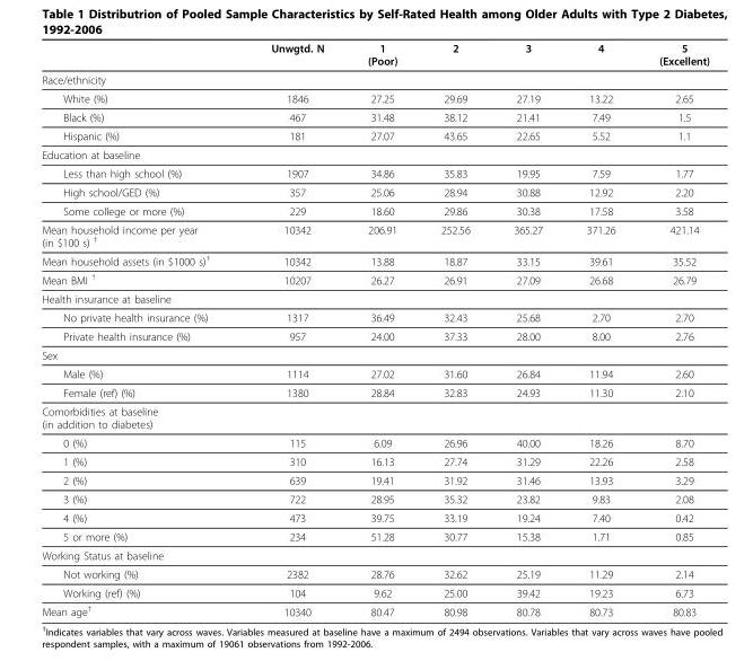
<table><thead><tr><td></td><td>Unwgtd. N</td><td>1 (Poor)</td><td>2</td><td>3</td><td>4</td><td>5 (Excellent)</td></tr></thead><tbody><tr><td colspan="7">Race/ethnicity</td></tr><tr><td>White (%)</td><td>1846</td><td>27.25</td><td>29.69</td><td>27.19</td><td>13.22</td><td>2.65</td></tr><tr><td>Black (%)</td><td>467</td><td>31.48</td><td>38.12</td><td>21.41</td><td>7.49</td><td>1.5</td></tr><tr><td>Hispanic (%)</td><td>181</td><td>27.07</td><td>43.65</td><td>22.65</td><td>5.52</td><td>1.1</td></tr><tr><td colspan="7">Education at baseline</td></tr><tr><td>Less than high school (%)</td><td>1907</td><td>34.86</td><td>35.83</td><td>19.95</td><td>7.59</td><td>1.77</td></tr><tr><td>High school/GED (%)</td><td>357</td><td>25.06</td><td>28.94</td><td>30.88</td><td>12.92</td><td>2.20</td></tr><tr><td>Some college or more (%)</td><td>229</td><td>18.60</td><td>29.86</td><td>30.38</td><td>17.58</td><td>3.58</td></tr><tr><td>Mean household income per year (in $100 s) <sup>†</sup></td><td>10342</td><td>206.91</td><td>252.56</td><td>365.27</td><td>371.26</td><td>421.14</td></tr><tr><td>Mean household assets (in $1000 s)<sup>†</sup></td><td>10342</td><td>13.88</td><td>18.87</td><td>33.15</td><td>39.61</td><td>35.52</td></tr><tr><td>Mean BMI <sup>†</sup></td><td>10207</td><td>26.27</td><td>26.91</td><td>27.09</td><td>26.68</td><td>26.79</td></tr><tr><td colspan="7">Health insurance at baseline</td></tr><tr><td>No private health insurance (%)</td><td>1317</td><td>36.49</td><td>32.43</td><td>25.68</td><td>2.70</td><td>2.70</td></tr><tr><td>Private health insurance (%)</td><td>957</td><td>24.00</td><td>37.33</td><td>28.00</td><td>8.00</td><td>2.76</td></tr><tr><td colspan="7">Sex</td></tr><tr><td>Male (%)</td><td>1114</td><td>27.02</td><td>31.60</td><td>26.84</td><td>11.94</td><td>2.60</td></tr><tr><td>Female (ref) (%)</td><td>1380</td><td>28.84</td><td>32.83</td><td>24.93</td><td>11.30</td><td>2.10</td></tr><tr><td colspan="7">Comorbidities at baseline (in addition to diabetes)</td></tr><tr><td>0 (%)</td><td>115</td><td>6.09</td><td>26.96</td><td>40.00</td><td>18.26</td><td>8.70</td></tr><tr><td>1 (%)</td><td>310</td><td>16.13</td><td>27.74</td><td>31.29</td><td>22.26</td><td>2.58</td></tr><tr><td>2 (%)</td><td>639</td><td>19.41</td><td>31.92</td><td>31.46</td><td>13.93</td><td>3.29</td></tr><tr><td>3 (%)</td><td>722</td><td>28.95</td><td>35.32</td><td>23.82</td><td>9.83</td><td>2.08</td></tr><tr><td>4 (%)</td><td>473</td><td>39.75</td><td>33.19</td><td>19.24</td><td>7.40</td><td>0.42</td></tr><tr><td>5 or more (%)</td><td>234</td><td>51.28</td><td>30.77</td><td>15.38</td><td>1.71</td><td>0.85</td></tr><tr><td colspan="7">Working Status at baseline</td></tr><tr><td>Not working (%)</td><td>2382</td><td>28.76</td><td>32.62</td><td>25.19</td><td>11.29</td><td>2.14</td></tr><tr><td>Working (ref) (%)</td><td>104</td><td>9.62</td><td>25.00</td><td>39.42</td><td>19.23</td><td>6.73</td></tr><tr><td>Mean age<sup>†</sup></td><td>10340</td><td>80.47</td><td>80.98</td><td>80.78</td><td>80.73</td><td>80.83</td></tr></tbody></table>